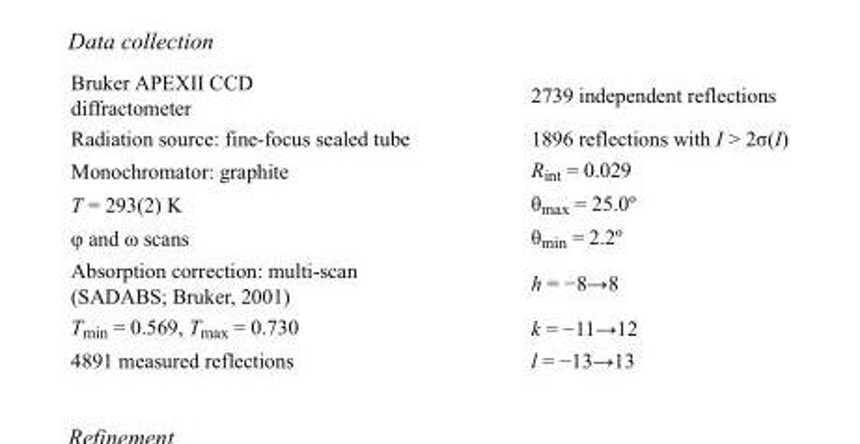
<table><tbody><tr><td>Bruker APEXII CCD diffractometer</td><td>2739 independent reflections</td></tr><tr><td>Radiation source: fine-focus sealed tube</td><td>1896 reflections with I &gt; 2σ(I)</td></tr><tr><td>Monochromator: graphite</td><td>R<sub>int</sub> = 0.029</td></tr><tr><td>T = 293(2) K</td><td>θ<sub>max</sub> = 25.0º</td></tr><tr><td>φ and ω scans</td><td>θ<sub>min</sub> = 2.2º</td></tr><tr><td>Absorption correction: multi-scan (SADABS; Bruker, 2001)</td><td>h = −8→8</td></tr><tr><td>T<sub>min</sub> = 0.569, T<sub>max</sub> = 0.730</td><td>k = −11→12</td></tr><tr><td>4891 measured reflections</td><td>l = −13→13</td></tr></tbody></table>